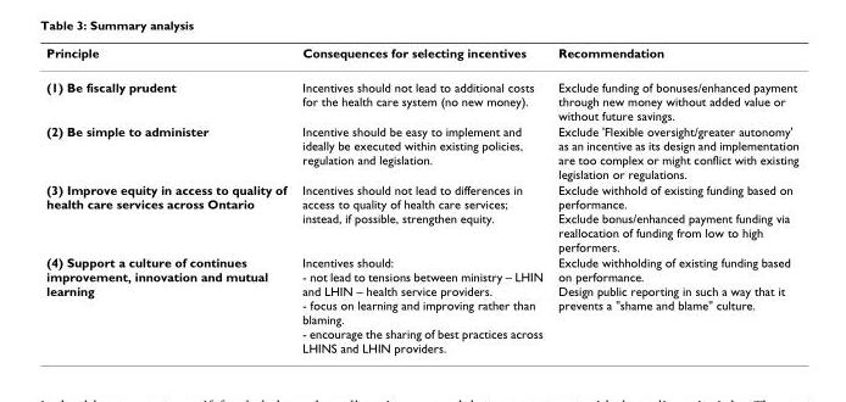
<table><thead><tr><td>Principle</td><td>Consequences for selecting incentives</td><td>Recommendation</td></tr></thead><tbody><tr><td>(1) Be fiscally prudent</td><td>Incentives should not lead to additional costs for the health care system (no new money).</td><td>Exclude funding of bonuses/enhanced payment through new money without added value or without future savings.</td></tr><tr><td>(2) Be simple to administer</td><td>Incentive should be easy to implement and ideally be executed within existing policies, regulation and legislation.</td><td>Exclude &#x27;Flexible oversight/greater autonomy&#x27; as an incentive as its design and implementation are too complex or might conflict with existing legislation or regulations.</td></tr><tr><td>(3) Improve equity in access to quality of health care services across Ontario</td><td>Incentives should not lead to differences in access to quality of health care services; instead, if possible, strengthen equity.</td><td>Exclude withhold of existing funding based on performance. Exclude bonus/enhanced payment funding via reallocation of funding from low to high performers.</td></tr><tr><td>(4) Support a culture of continues improvement, innovation and mutual learning</td><td>Incentives should: - not lead to tensions between ministry – LHIN and LHIN – health service providers. - focus on learning and improving rather than blaming. - encourage the sharing of best practices across LHINS and LHIN providers.</td><td>Exclude withholding of existing funding based on performance. Design public reporting in such a way that it prevents a &quot;shame and blame&quot; culture.</td></tr></tbody></table>